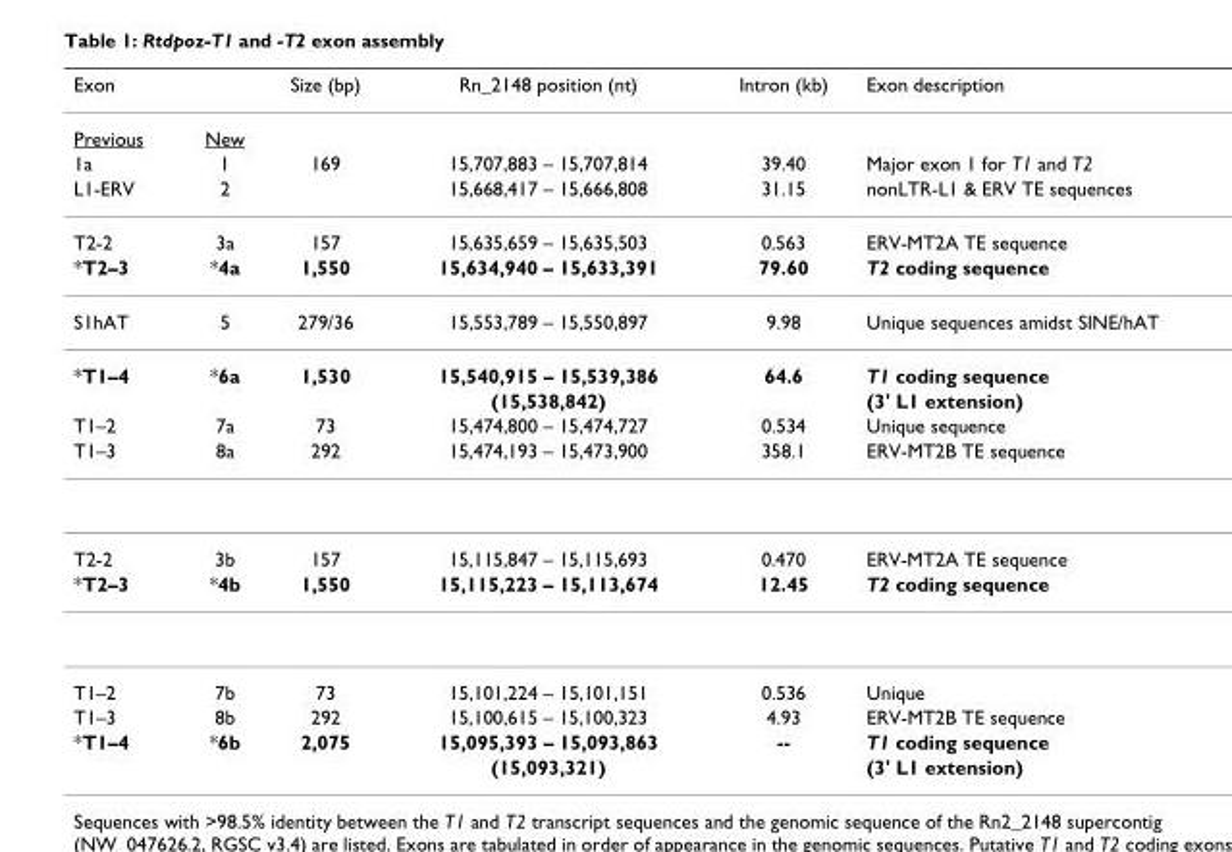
<table><thead><tr><td>Exon</td><td></td><td>Size (bp)</td><td>Rn_2148 position (nt)</td><td>Intron (kb)</td><td>Exon description</td></tr></thead><tbody><tr><td>Previous</td><td>New</td><td></td><td></td><td></td><td></td></tr><tr><td>1a</td><td>1</td><td>169</td><td>15,707,883 – 15,707,814</td><td>39.40</td><td>Major exon 1 for T1 and T2</td></tr><tr><td>L1-ERV</td><td>2</td><td></td><td>15,668,417 – 15,666,808</td><td>31.15</td><td>nonLTR-L1 &amp; ERV TE sequences</td></tr><tr><td>T2-2</td><td>3a</td><td>157</td><td>15,635,659 – 15,635,503</td><td>0.563</td><td>ERV-MT2A TE sequence</td></tr><tr><td>*T2–3</td><td>*4a</td><td>1,550</td><td>15,634,940 – 15,633,391</td><td>79.60</td><td>T2 coding sequence</td></tr><tr><td>S1hAT</td><td>5</td><td>279/36</td><td>15,553,789 – 15,550,897</td><td>9.98</td><td>Unique sequences amidst SINE/hAT</td></tr><tr><td rowspan="2">*T1–4</td><td>*6a</td><td>1,530</td><td>15,540,915 – 15,539,386</td><td>64.6</td><td>T1 coding sequence</td></tr><tr><td></td><td></td><td>(15,538,842)</td><td></td><td>(3&#x27; L1 extension)</td></tr><tr><td>T1–2</td><td>7a</td><td>73</td><td>15,474,800 – 15,474,727</td><td>0.534</td><td>Unique sequence</td></tr><tr><td>T1–3</td><td>8a</td><td>292</td><td>15,474,193 – 15,473,900</td><td>358.1</td><td>ERV-MT2B TE sequence</td></tr><tr><td>T2-2</td><td>3b</td><td>157</td><td>15,115,847 – 15,115,693</td><td>0.470</td><td>ERV-MT2A TE sequence</td></tr><tr><td>*T2–3</td><td>*4b</td><td>1,550</td><td>15,115,223 – 15,113,674</td><td>12.45</td><td>T2 coding sequence</td></tr><tr><td>T1–2</td><td>7b</td><td>73</td><td>15,101,224 – 15,101,151</td><td>0.536</td><td>Unique</td></tr><tr><td>T1–3</td><td>8b</td><td>292</td><td>15,100,615 – 15,100,323</td><td>4.93</td><td>ERV-MT2B TE sequence</td></tr><tr><td rowspan="2">*T1–4</td><td>*6b</td><td>2,075</td><td>15,095,393 – 15,093,863</td><td>--</td><td>T1 coding sequence</td></tr><tr><td></td><td></td><td>(15,093,321)</td><td></td><td>(3&#x27; L1 extension)</td></tr></tbody></table>